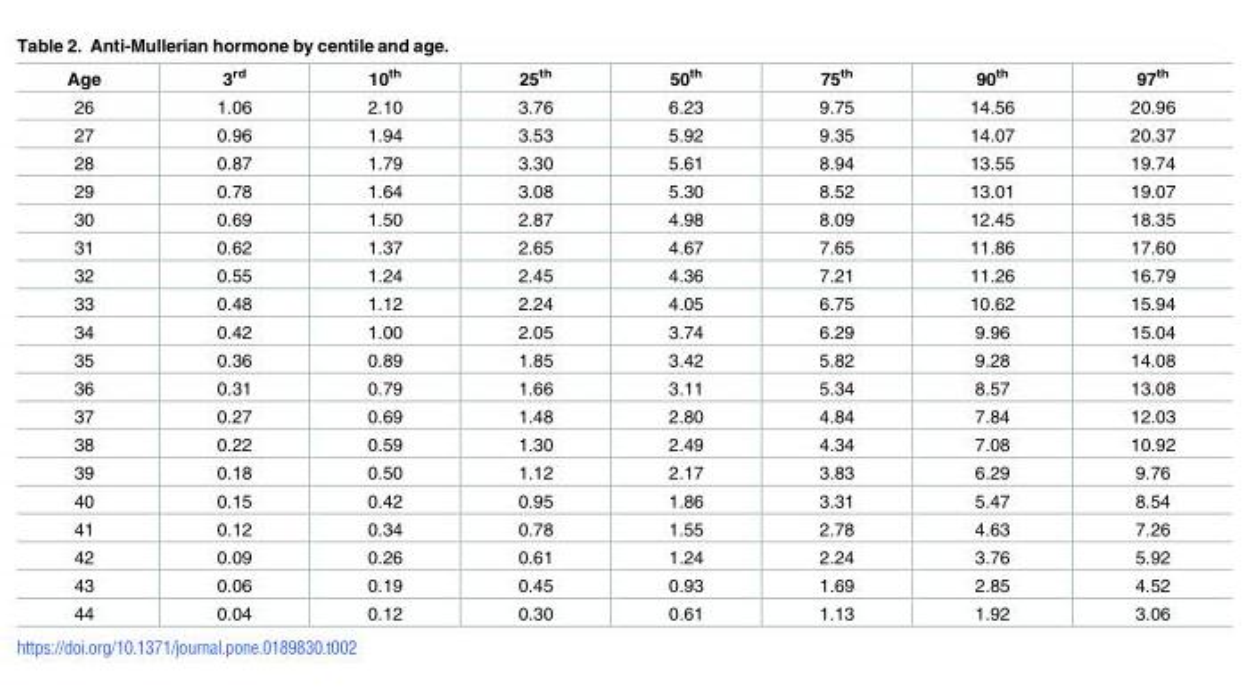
<table><thead><tr><td>Age</td><td>3<sup>rd</sup></td><td>10<sup>th</sup></td><td>25<sup>th</sup></td><td>50<sup>th</sup></td><td>75<sup>th</sup></td><td>90<sup>th</sup></td><td>97<sup>th</sup></td></tr></thead><tbody><tr><td>26</td><td>1.06</td><td>2.10</td><td>3.76</td><td>6.23</td><td>9.75</td><td>14.56</td><td>20.96</td></tr><tr><td>27</td><td>0.96</td><td>1.94</td><td>3.53</td><td>5.92</td><td>9.35</td><td>14.07</td><td>20.37</td></tr><tr><td>28</td><td>0.87</td><td>1.79</td><td>3.30</td><td>5.61</td><td>8.94</td><td>13.55</td><td>19.74</td></tr><tr><td>29</td><td>0.78</td><td>1.64</td><td>3.08</td><td>5.30</td><td>8.52</td><td>13.01</td><td>19.07</td></tr><tr><td>30</td><td>0.69</td><td>1.50</td><td>2.87</td><td>4.98</td><td>8.09</td><td>12.45</td><td>18.35</td></tr><tr><td>31</td><td>0.62</td><td>1.37</td><td>2.65</td><td>4.67</td><td>7.65</td><td>11.86</td><td>17.60</td></tr><tr><td>32</td><td>0.55</td><td>1.24</td><td>2.45</td><td>4.36</td><td>7.21</td><td>11.26</td><td>16.79</td></tr><tr><td>33</td><td>0.48</td><td>1.12</td><td>2.24</td><td>4.05</td><td>6.75</td><td>10.62</td><td>15.94</td></tr><tr><td>34</td><td>0.42</td><td>1.00</td><td>2.05</td><td>3.74</td><td>6.29</td><td>9.96</td><td>15.04</td></tr><tr><td>35</td><td>0.36</td><td>0.89</td><td>1.85</td><td>3.42</td><td>5.82</td><td>9.28</td><td>14.08</td></tr><tr><td>36</td><td>0.31</td><td>0.79</td><td>1.66</td><td>3.11</td><td>5.34</td><td>8.57</td><td>13.08</td></tr><tr><td>37</td><td>0.27</td><td>0.69</td><td>1.48</td><td>2.80</td><td>4.84</td><td>7.84</td><td>12.03</td></tr><tr><td>38</td><td>0.22</td><td>0.59</td><td>1.30</td><td>2.49</td><td>4.34</td><td>7.08</td><td>10.92</td></tr><tr><td>39</td><td>0.18</td><td>0.50</td><td>1.12</td><td>2.17</td><td>3.83</td><td>6.29</td><td>9.76</td></tr><tr><td>40</td><td>0.15</td><td>0.42</td><td>0.95</td><td>1.86</td><td>3.31</td><td>5.47</td><td>8.54</td></tr><tr><td>41</td><td>0.12</td><td>0.34</td><td>0.78</td><td>1.55</td><td>2.78</td><td>4.63</td><td>7.26</td></tr><tr><td>42</td><td>0.09</td><td>0.26</td><td>0.61</td><td>1.24</td><td>2.24</td><td>3.76</td><td>5.92</td></tr><tr><td>43</td><td>0.06</td><td>0.19</td><td>0.45</td><td>0.93</td><td>1.69</td><td>2.85</td><td>4.52</td></tr><tr><td>44</td><td>0.04</td><td>0.12</td><td>0.30</td><td>0.61</td><td>1.13</td><td>1.92</td><td>3.06</td></tr></tbody></table>